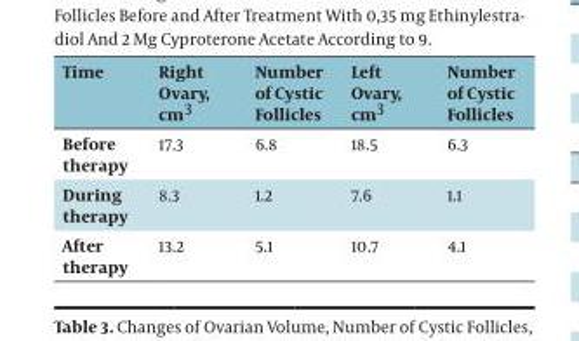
<table><thead><tr><td>Time</td><td>Right Ovary, cm<sup>3</sup></td><td>Number of Cystic Follicles</td><td>Left Ovary, cm<sup>3</sup></td><td>Number of Cystic Follicles</td></tr></thead><tbody><tr><td>Before therapy</td><td>17.3</td><td>6.8</td><td>18.5</td><td>6.3</td></tr><tr><td>During therapy</td><td>8.3</td><td>1.2</td><td>7.6</td><td>1.1</td></tr><tr><td>After therapy</td><td>13.2</td><td>5.1</td><td>10.7</td><td>4.1</td></tr></tbody></table>